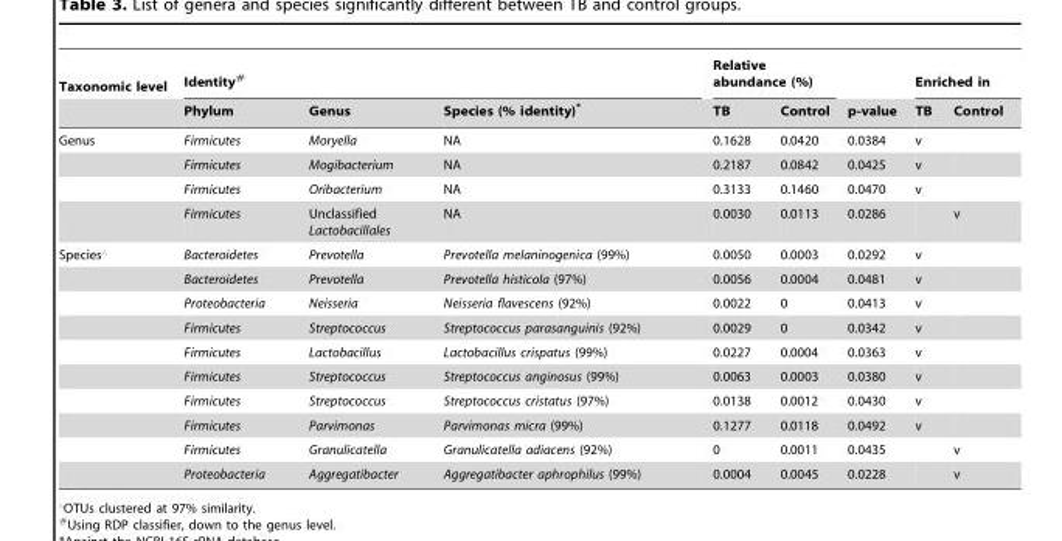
<table><thead><tr><td rowspan="2">Taxonomic level</td><td colspan="3">Identity#</td><td colspan="2">Relative abundance (%)</td><td rowspan="2">p-value</td><td colspan="2">Enriched in</td></tr><tr><td>Phylum</td><td>Genus</td><td>Species (% identity)*</td><td>TB</td><td>Control</td><td>TB</td><td>Control</td></tr></thead><tbody><tr><td rowspan="4">Genus</td><td>Firmicutes</td><td>Moryella</td><td>NA</td><td>0.1628</td><td>0.0420</td><td>0.0384</td><td>v</td><td></td></tr><tr><td>Firmicutes</td><td>Mogibacterium</td><td>NA</td><td>0.2187</td><td>0.0842</td><td>0.0425</td><td>v</td><td></td></tr><tr><td>Firmicutes</td><td>Oribacterium</td><td>NA</td><td>0.3133</td><td>0.1460</td><td>0.0470</td><td>v</td><td></td></tr><tr><td>Firmicutes</td><td>Unclassified Lactobacillales</td><td>NA</td><td>0.0030</td><td>0.0113</td><td>0.0286</td><td></td><td>v</td></tr><tr><td rowspan="10">Species‘</td><td>Bacteroidetes</td><td>Prevotella</td><td>Prevotella melaninogenica (99%)</td><td>0.0050</td><td>0.0003</td><td>0.0292</td><td>v</td><td></td></tr><tr><td>Bacteroidetes</td><td>Prevotella</td><td>Prevotella histicola (97%)</td><td>0.0056</td><td>0.0004</td><td>0.0481</td><td>v</td><td></td></tr><tr><td>Proteobacteria</td><td>Neisseria</td><td>Neisseria flavescens (92%)</td><td>0.0022</td><td>0</td><td>0.0413</td><td>v</td><td></td></tr><tr><td>Firmicutes</td><td>Streptococcus</td><td>Streptococcus parasanguinis (92%)</td><td>0.0029</td><td>0</td><td>0.0342</td><td>v</td><td></td></tr><tr><td>Firmicutes</td><td>Lactobacillus</td><td>Lactobacillus crispatus (99%)</td><td>0.0227</td><td>0.0004</td><td>0.0363</td><td>v</td><td></td></tr><tr><td>Firmicutes</td><td>Streptococcus</td><td>Streptococcus anginosus (99%)</td><td>0.0063</td><td>0.0003</td><td>0.0380</td><td>v</td><td></td></tr><tr><td>Firmicutes</td><td>Streptococcus</td><td>Streptococcus cristatus (97%)</td><td>0.0138</td><td>0.0012</td><td>0.0430</td><td>v</td><td></td></tr><tr><td>Firmicutes</td><td>Parvimonas</td><td>Parvimonas micra (99%)</td><td>0.1277</td><td>0.0118</td><td>0.0492</td><td>v</td><td></td></tr><tr><td>Firmicutes</td><td>Granulicatella</td><td>Granulicatella adiacens (92%)</td><td>0</td><td>0.0011</td><td>0.0435</td><td></td><td>v</td></tr><tr><td>Proteobacteria</td><td>Aggregatibacter</td><td>Aggregatibacter aphrophilus (99%)</td><td>0.0004</td><td>0.0045</td><td>0.0228</td><td></td><td>v</td></tr></tbody></table>